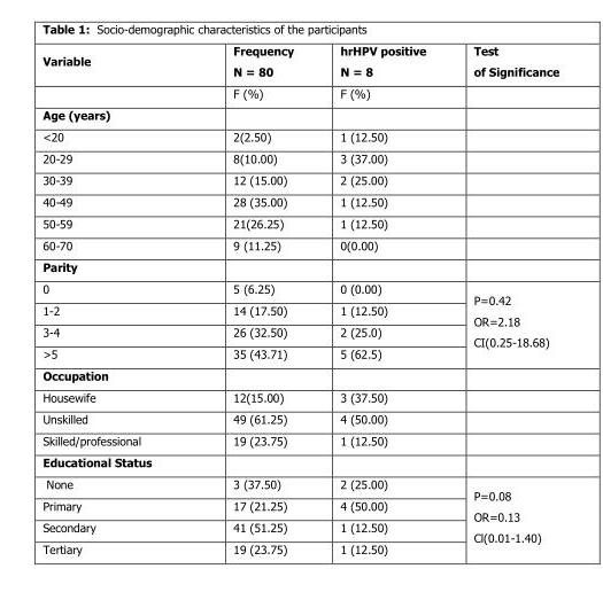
<table><thead><tr><td>Variable</td><td>Frequency N = 80</td><td>hrHPV positive N = 8</td><td>Test of Significance</td></tr></thead><tbody><tr><td></td><td>F (%)</td><td>F (%)</td><td></td></tr><tr><td colspan="4">Age (years)</td></tr><tr><td>&lt;20</td><td>2(2.50)</td><td>1 (12.50)</td><td></td></tr><tr><td>20-29</td><td>8(10.00)</td><td>3 (37.00)</td><td></td></tr><tr><td>30-39</td><td>12 (15.00)</td><td>2 (25.00)</td><td></td></tr><tr><td>40-49</td><td>28 (35.00)</td><td>1 (12.50)</td><td></td></tr><tr><td>50-59</td><td>21(26.25)</td><td>1 (12.50)</td><td></td></tr><tr><td>60-70</td><td>9 (11.25)</td><td>0(0.00)</td><td></td></tr><tr><td colspan="4">Parity</td></tr><tr><td>0</td><td>5 (6.25)</td><td>0 (0.00)</td><td rowspan="4">P=0.42 OR=2.18 CI(0.25-18.68)</td></tr><tr><td>1-2</td><td>14 (17.50)</td><td>1 (12.50)</td></tr><tr><td>3-4</td><td>26 (32.50)</td><td>2 (25.0)</td></tr><tr><td>&gt;5</td><td>35 (43.71)</td><td>5 (62.5)</td></tr><tr><td colspan="4">Occupation</td></tr><tr><td>Housewife</td><td>12(15.00)</td><td>3 (37.50)</td><td></td></tr><tr><td>Unskilled</td><td>49 (61.25)</td><td>4 (50.00)</td><td></td></tr><tr><td>Skilled/professional</td><td>19 (23.75)</td><td>1 (12.50)</td><td></td></tr><tr><td colspan="4">Educational Status</td></tr><tr><td>None</td><td>3 (37.50)</td><td>2 (25.00)</td><td rowspan="4">P=0.08 OR=0.13 Cl(0.01-1.40)</td></tr><tr><td>Primary</td><td>17 (21.25)</td><td>4 (50.00)</td></tr><tr><td>Secondary</td><td>41 (51.25)</td><td>1 (12.50)</td></tr><tr><td>Tertiary</td><td>19 (23.75)</td><td>1 (12.50)</td></tr></tbody></table>